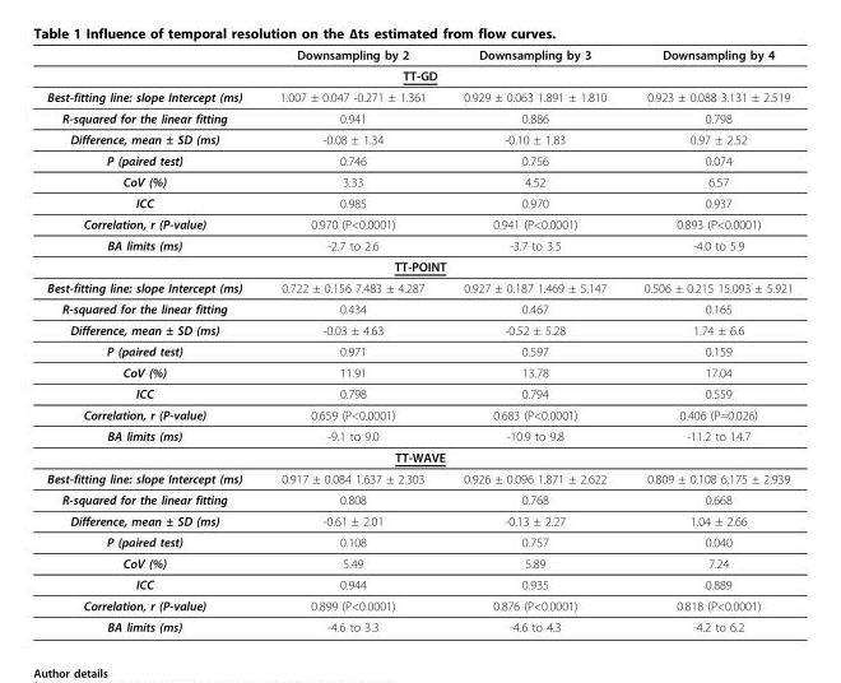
<table><thead><tr><td></td><td>Downsampling by 2</td><td>Downsampling by 3</td><td>Downsampling by 4</td></tr></thead><tbody><tr><td colspan="4">TT-GD</td></tr><tr><td>Best-fitting line: slope Intercept (ms)</td><td>1.007 ± 0.047 -0.271 ± 1.361</td><td>0.929 ± 0.063 1.891 ± 1.810</td><td>0.923 ± 0.088 3.131 ± 2.519</td></tr><tr><td>R-squared for the linear fitting</td><td>0.941</td><td>0.886</td><td>0.798</td></tr><tr><td>Difference, mean ± SD (ms)</td><td>-0.08 ± 1.34</td><td>-0.10 ± 1.83</td><td>0.97 ± 2.52</td></tr><tr><td>P (paired test)</td><td>0.746</td><td>0.756</td><td>0.074</td></tr><tr><td>CoV (%)</td><td>3.33</td><td>4.52</td><td>6.57</td></tr><tr><td>ICC</td><td>0.985</td><td>0.970</td><td>0.937</td></tr><tr><td>Correlation, r (P-value)</td><td>0.970 (P&lt;0.0001)</td><td>0.941 (P&lt;0.0001)</td><td>0.893 (P&lt;0.0001)</td></tr><tr><td>BA limits (ms)</td><td>-2.7 to 2.6</td><td>-3.7 to 3.5</td><td>-4.0 to 5.9</td></tr><tr><td colspan="4">TT-POINT</td></tr><tr><td>Best-fitting line: slope Intercept (ms)</td><td>0.722 ± 0.156 7.483 ± 4.287</td><td>0.927 ± 0.187 1.469 ± 5.147</td><td>0.506 ± 0.215 15.093 ± 5.921</td></tr><tr><td>R-squared for the linear fitting</td><td>0.434</td><td>0.467</td><td>0.165</td></tr><tr><td>Difference, mean ± SD (ms)</td><td>-0.03 ± 4.63</td><td>-0.52 ± 5.28</td><td>1.74 ± 6.6</td></tr><tr><td>P (paired test)</td><td>0.971</td><td>0.597</td><td>0.159</td></tr><tr><td>CoV (%)</td><td>11.91</td><td>13.78</td><td>17.04</td></tr><tr><td>ICC</td><td>0.798</td><td>0.794</td><td>0.559</td></tr><tr><td>Correlation, r (P-value)</td><td>0.659 (P&lt;0.0001)</td><td>0.683 (P&lt;0.0001)</td><td>0.406 (P=0.026)</td></tr><tr><td>BA limits (ms)</td><td>-9.1 to 9.0</td><td>-10.9 to 9.8</td><td>-11.2 to 14.7</td></tr><tr><td colspan="4">TT-WAVE</td></tr><tr><td>Best-fitting line: slope Intercept (ms)</td><td>0.917 ± 0.084 1.637 ± 2.303</td><td>0.926 ± 0.096 1.871 ± 2.622</td><td>0.809 ± 0.108 6.175 ± 2.939</td></tr><tr><td>R-squared for the linear fitting</td><td>0.808</td><td>0.768</td><td>0.668</td></tr><tr><td>Difference, mean ± SD (ms)</td><td>-0.61 ± 2.01</td><td>-0.13 ± 2.27</td><td>1.04 ± 2.66</td></tr><tr><td>P (paired test)</td><td>0.108</td><td>0.757</td><td>0.040</td></tr><tr><td>CoV (%)</td><td>5.49</td><td>5.89</td><td>7.24</td></tr><tr><td>ICC</td><td>0.944</td><td>0.935</td><td>0.889</td></tr><tr><td>Correlation, r (P-value)</td><td>0.899 (P&lt;0.0001)</td><td>0.876 (P&lt;0.0001)</td><td>0.818 (P&lt;0.0001)</td></tr><tr><td>BA limits (ms)</td><td>-4.6 to 3.3</td><td>-4.6 to 4.3</td><td>-4.2 to 6.2</td></tr></tbody></table>